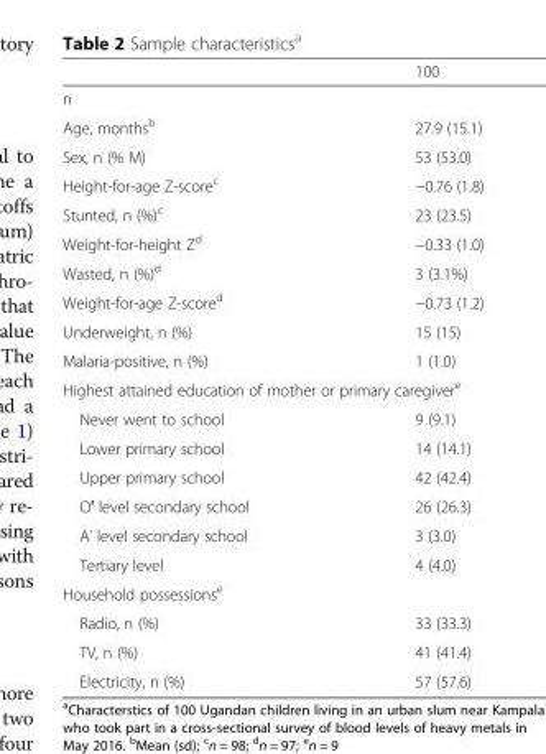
<table><thead><tr><td></td><td>100</td></tr></thead><tbody><tr><td colspan="2">n</td></tr><tr><td>Age, months<sup>b</sup></td><td>27.9 (15.1)</td></tr><tr><td>Sex, n (% M)</td><td>53 (53.0)</td></tr><tr><td>Height-for-age Z-score<sup>c</sup></td><td>−0.76 (1.8)</td></tr><tr><td>Stunted, n (%)<sup>c</sup></td><td>23 (23.5)</td></tr><tr><td>Weight-for-height Z<sup>d</sup></td><td>−0.33 (1.0)</td></tr><tr><td>Wasted, n (%)<sup>d</sup></td><td>3 (3.1%)</td></tr><tr><td>Weight-for-age Z-score<sup>d</sup></td><td>−0.73 (1.2)</td></tr><tr><td>Underweight, n (%)</td><td>15 (15)</td></tr><tr><td>Malaria-positive, n (%)</td><td>1 (1.0)</td></tr><tr><td colspan="2">Highest attained education of mother or primary caregiver<sup>e</sup></td></tr><tr><td>Never went to school</td><td>9 (9.1)</td></tr><tr><td>Lower primary school</td><td>14 (14.1)</td></tr><tr><td>Upper primary school</td><td>42 (42.4)</td></tr><tr><td>O′ level secondary school</td><td>26 (26.3)</td></tr><tr><td>A’ level secondary school</td><td>3 (3.0)</td></tr><tr><td>Tertiary level</td><td>4 (4.0)</td></tr><tr><td colspan="2">Household possessions<sup>e</sup></td></tr><tr><td>Radio, n (%)</td><td>33 (33.3)</td></tr><tr><td>TV, n (%)</td><td>41 (41.4)</td></tr><tr><td>Electricity, n (%)</td><td>57 (57.6)</td></tr></tbody></table>